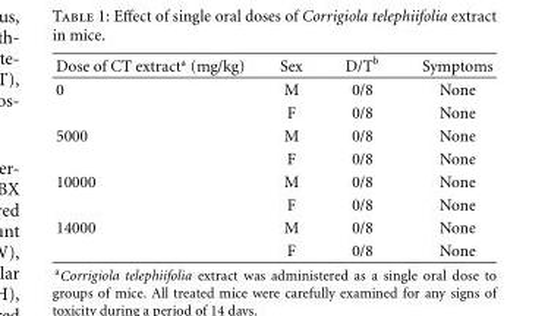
<table><thead><tr><td>Dose of CT extract<sup>a</sup> (mg/kg)</td><td>Sex</td><td>D/T<sup>b</sup></td><td>Symptoms</td></tr></thead><tbody><tr><td rowspan="2">0</td><td>M</td><td>0/8</td><td>None</td></tr><tr><td>F</td><td>0/8</td><td>None</td></tr><tr><td rowspan="2">5000</td><td>M</td><td>0/8</td><td>None</td></tr><tr><td>F</td><td>0/8</td><td>None</td></tr><tr><td rowspan="2">10000</td><td>M</td><td>0/8</td><td>None</td></tr><tr><td>F</td><td>0/8</td><td>None</td></tr><tr><td rowspan="2">14000</td><td>M</td><td>0/8</td><td>None</td></tr><tr><td>F</td><td>0/8</td><td>None</td></tr></tbody></table>